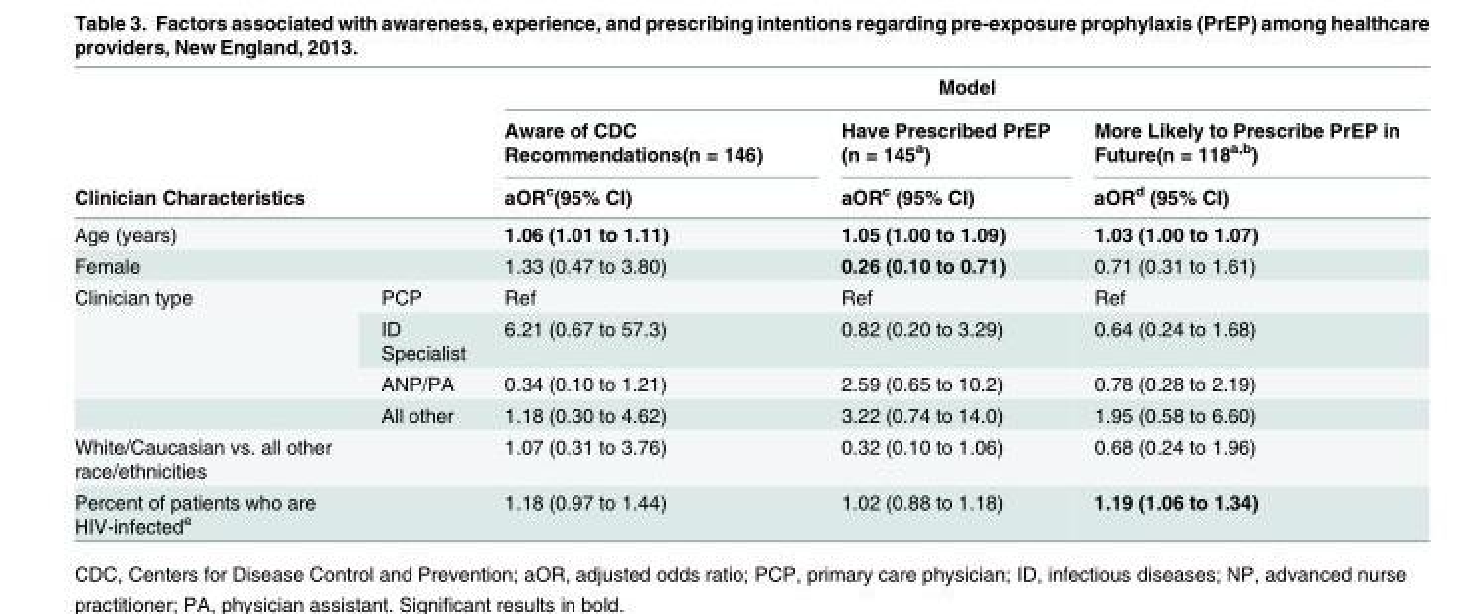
<table><thead><tr><td rowspan="2"></td><td rowspan="2"></td><td colspan="3">Model</td></tr><tr><td rowspan="2">Aware of CDC Recommendations(n = 146) aOR<sup>c</sup>(95% CI)</td><td rowspan="2">Have Prescribed PrEP (n = 145<sup>a</sup>) aOR<sup>c</sup> (95% CI)</td><td rowspan="2">More Likely to Prescribe PrEP in Future(n = 118<sup>a,b</sup>) aOR<sup>d</sup> (95% CI)</td></tr><tr><td colspan="2">Clinician Characteristics</td></tr></thead><tbody><tr><td>Age (years)</td><td></td><td>1.06 (1.01 to 1.11)</td><td>1.05 (1.00 to 1.09)</td><td>1.03 (1.00 to 1.07)</td></tr><tr><td>Female</td><td></td><td>1.33 (0.47 to 3.80)</td><td>0.26 (0.10 to 0.71)</td><td>0.71 (0.31 to 1.61)</td></tr><tr><td rowspan="4">Clinician type</td><td>PCP</td><td>Ref</td><td>Ref</td><td>Ref</td></tr><tr><td>ID Specialist</td><td>6.21 (0.67 to 57.3)</td><td>0.82 (0.20 to 3.29)</td><td>0.64 (0.24 to 1.68)</td></tr><tr><td>ANP/PA</td><td>0.34 (0.10 to 1.21)</td><td>2.59 (0.65 to 10.2)</td><td>0.78 (0.28 to 2.19)</td></tr><tr><td>All other</td><td>1.18 (0.30 to 4.62)</td><td>3.22 (0.74 to 14.0)</td><td>1.95 (0.58 to 6.60)</td></tr><tr><td>White/Caucasian vs. all other race/ethnicities</td><td></td><td>1.07 (0.31 to 3.76)</td><td>0.32 (0.10 to 1.06)</td><td>0.68 (0.24 to 1.96)</td></tr><tr><td>Percent of patients who are HIV-infected<sup>e</sup></td><td></td><td>1.18 (0.97 to 1.44)</td><td>1.02 (0.88 to 1.18)</td><td>1.19 (1.06 to 1.34)</td></tr></tbody></table>